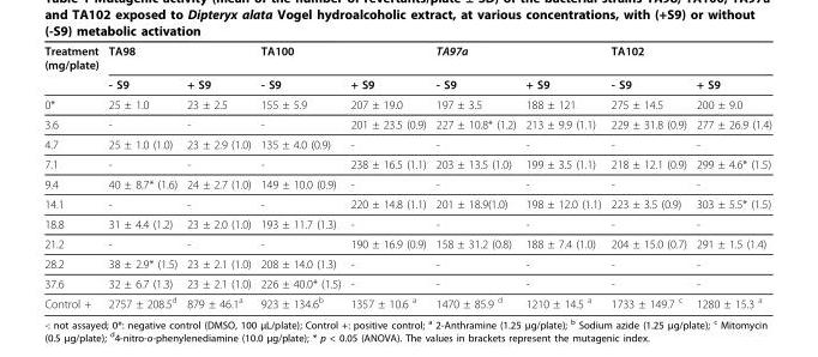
<table><thead><tr><td rowspan="2">Treatment (mg/plate)</td><td colspan="2">TA98</td><td colspan="2">TA100</td><td colspan="2">TA97a</td><td colspan="2">TA102</td></tr><tr><td>- S9</td><td>+ S9</td><td>- S9</td><td>+ S9</td><td>- S9</td><td>+ S9</td><td>- S9</td><td>+ S9</td></tr></thead><tbody><tr><td>0*</td><td>25 ± 1.0</td><td>23 ± 2.5</td><td>155 ± 5.9</td><td>207 ± 19.0</td><td>197 ± 3.5</td><td>188 ± 121</td><td>275 ± 14.5</td><td>200 ± 9.0</td></tr><tr><td>3.6</td><td>-</td><td>-</td><td>-</td><td>201 ± 23.5 (0.9)</td><td>227 ± 10.8* (1.2)</td><td>213 ± 9.9 (1.1)</td><td>229 ± 31.8 (0.9)</td><td>277 ± 26.9 (1.4)</td></tr><tr><td>4.7</td><td>25 ± 1.0 (1.0)</td><td>23 ± 2.9 (1.0)</td><td>135 ± 4.0 (0.9)</td><td>-</td><td>-</td><td>-</td><td>-</td><td>-</td></tr><tr><td>7.1</td><td>-</td><td>-</td><td>-</td><td>238 ± 16.5 (1.1)</td><td>203 ± 13.5 (1.0)</td><td>199 ± 3.5 (1.1)</td><td>218 ± 12.1 (0.9)</td><td>299 ± 4.6* (1.5)</td></tr><tr><td>9.4</td><td>40 ± 8.7* (1.6)</td><td>24 ± 2.7 (1.0)</td><td>149 ± 10.0 (0.9)</td><td>-</td><td>-</td><td>-</td><td>-</td><td>-</td></tr><tr><td>14.1</td><td>-</td><td>-</td><td>-</td><td>220 ± 14.8 (1.1)</td><td>201 ± 18.9(1.0)</td><td>198 ± 12.0 (1.1)</td><td>223 ± 3.5 (0.9)</td><td>303 ± 5.5* (1.5)</td></tr><tr><td>18.8</td><td>31 ± 4.4 (1.2)</td><td>23 ± 2.0 (1.0)</td><td>193 ± 11.7 (1.3)</td><td>-</td><td>-</td><td>-</td><td>-</td><td>-</td></tr><tr><td>21.2</td><td>-</td><td>-</td><td>-</td><td>190 ± 16.9 (0.9)</td><td>158 ± 31.2 (0.8)</td><td>188 ± 7.4 (1.0)</td><td>204 ± 15.0 (0.7)</td><td>291 ± 1.5 (1.4)</td></tr><tr><td>28.2</td><td>38 ± 2.9* (1.5)</td><td>23 ± 2.1 (1.0)</td><td>208 ± 14.0 (1.3)</td><td>-</td><td>-</td><td>-</td><td>-</td><td>-</td></tr><tr><td>37.6</td><td>32 ± 6.7 (1.3)</td><td>23 ± 2.1 (1.0)</td><td>226 ± 40.0* (1.5)</td><td>-</td><td>-</td><td>-</td><td>-</td><td>-</td></tr><tr><td>Control +</td><td>2757 ± 208.5<sup>d</sup></td><td>879 ± 46.1<sup>a</sup></td><td>923 ± 134.6<sup>b</sup></td><td>1357 ± 10.6 <sup>a</sup></td><td>1470 ± 85.9 <sup>d</sup></td><td>1210 ± 14.5 <sup>a</sup></td><td>1733 ± 149.7 <sup>c</sup></td><td>1280 ± 15.3 <sup>a</sup></td></tr></tbody></table>